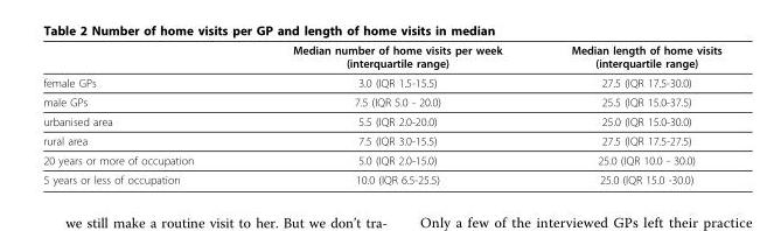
<table><thead><tr><td></td><td>Median number of home visits per week (interquartile range)</td><td>Median length of home visits (interquartile range)</td></tr></thead><tbody><tr><td>female GPs</td><td>3.0 (IQR 1.5-15.5)</td><td>27.5 (IQR 17.5-30.0)</td></tr><tr><td>male GPs</td><td>7.5 (IQR 5.0 - 20.0)</td><td>25.5 (IQR 15.0-37.5)</td></tr><tr><td>urbanised area</td><td>5.5 (IQR 2.0-20.0)</td><td>25.0 (IQR 15.0-30.0)</td></tr><tr><td>rural area</td><td>7.5 (IQR 3.0-15.5)</td><td>27.5 (IQR 17.5-27.5)</td></tr><tr><td>20 years or more of occupation</td><td>5.0 (IQR 2.0-15.0)</td><td>25.0 (IQR 10.0 - 30.0)</td></tr><tr><td>5 years or less of occupation</td><td>10.0 (IQR 6.5-25.5)</td><td>25.0 (IQR 15.0 -30.0)</td></tr></tbody></table>